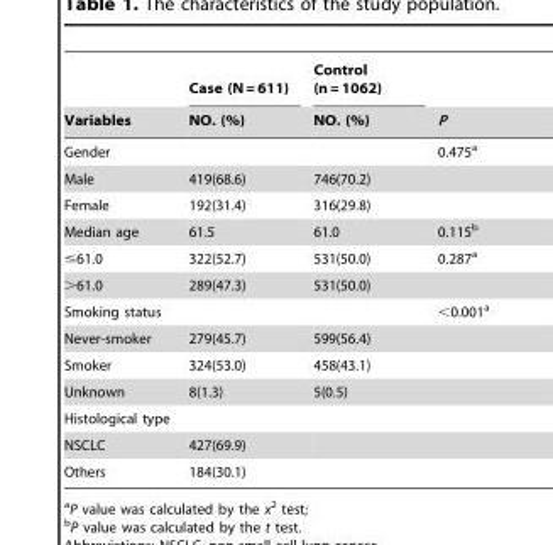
<table><thead><tr><td rowspan="2">Variables</td><td rowspan="2">Case (N = 611) NO. (%)</td><td rowspan="2">Control (n = 1062) NO. (%)</td><td rowspan="2">P</td></tr><tr></tr></thead><tbody><tr><td>Gender</td><td></td><td></td><td>0.475<sup>a</sup></td></tr><tr><td>Male</td><td>419(68.6)</td><td>746(70.2)</td><td></td></tr><tr><td>Female</td><td>192(31.4)</td><td>316(29.8)</td><td></td></tr><tr><td>Median age</td><td>61.5</td><td>61.0</td><td>0.115<sup>b</sup></td></tr><tr><td>≤61.0</td><td>322(52.7)</td><td>531(50.0)</td><td>0.287<sup>a</sup></td></tr><tr><td>&gt;61.0</td><td>289(47.3)</td><td>531(50.0)</td><td></td></tr><tr><td>Smoking status</td><td></td><td></td><td>&lt;0.001<sup>a</sup></td></tr><tr><td>Never-smoker</td><td>279(45.7)</td><td>599(56.4)</td><td></td></tr><tr><td>Smoker</td><td>324(53.0)</td><td>458(43.1)</td><td></td></tr><tr><td>Unknown</td><td>8(1.3)</td><td>5(0.5)</td><td></td></tr><tr><td colspan="4">Histological type</td></tr><tr><td>NSCLC</td><td>427(69.9)</td><td></td><td></td></tr><tr><td>Others</td><td>184(30.1)</td><td></td><td></td></tr></tbody></table>